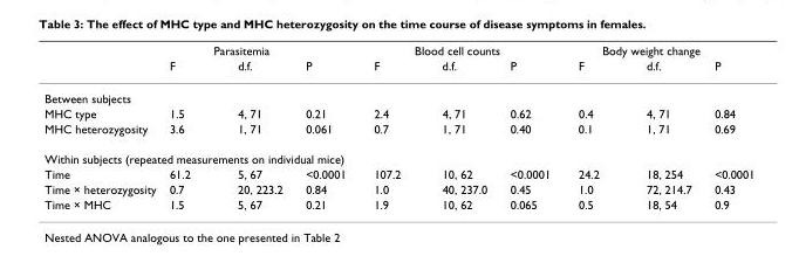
<table><thead><tr><td rowspan="2"></td><td colspan="3">Parasitemia</td><td colspan="3">Blood cell counts</td><td colspan="3">Body weight change</td></tr><tr><td>F</td><td>d.f.</td><td>P</td><td>F</td><td>d.f.</td><td>P</td><td>F</td><td>d.f.</td><td>P</td></tr></thead><tbody><tr><td colspan="10">Between subjects</td></tr><tr><td>MHC type</td><td>1.5</td><td>4, 71</td><td>0.21</td><td>2.4</td><td>4, 71</td><td>0.62</td><td>0.4</td><td>4, 71</td><td>0.84</td></tr><tr><td>MHC heterozygosity</td><td>3.6</td><td>1, 71</td><td>0.061</td><td>0.7</td><td>1, 71</td><td>0.40</td><td>0.1</td><td>1, 71</td><td>0.69</td></tr><tr><td colspan="10">Within subjects (repeated measurements on individual mice)</td></tr><tr><td>Time</td><td>61.2</td><td>5, 67</td><td>&lt;0.0001</td><td>107.2</td><td>10, 62</td><td>&lt;0.0001</td><td>24.2</td><td>18, 254</td><td>&lt;0.0001</td></tr><tr><td>Time × heterozygosity</td><td>0.7</td><td>20, 223.2</td><td>0.84</td><td>1.0</td><td>40, 237.0</td><td>0.45</td><td>1.0</td><td>72, 214.7</td><td>0.43</td></tr><tr><td>Time × MHC</td><td>1.5</td><td>5, 67</td><td>0.21</td><td>1.9</td><td>10, 62</td><td>0.065</td><td>0.5</td><td>18, 54</td><td>0.9</td></tr></tbody></table>